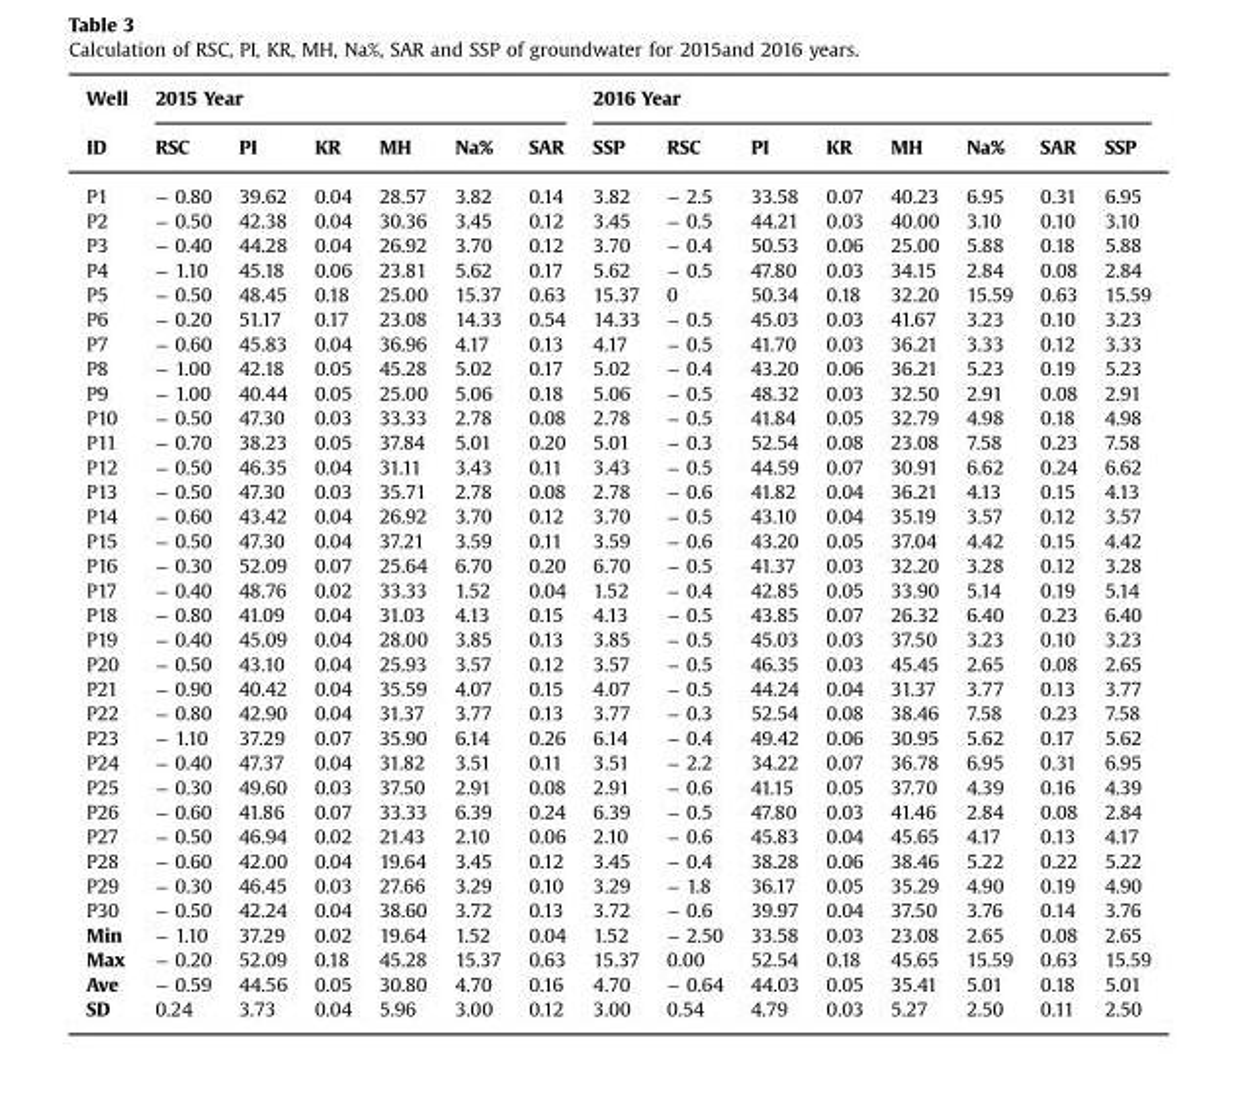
<table><thead><tr><td rowspan="2">Well ID</td><td colspan="6">2015 Year</td><td colspan="8">2016 Year</td></tr><tr><td>RSC</td><td>PI</td><td>KR</td><td>MH</td><td>Na%</td><td>SAR</td><td>SSP</td><td>RSC</td><td>PI</td><td>KR</td><td>MH</td><td>Na%</td><td>SAR</td><td>SSP</td></tr></thead><tbody><tr><td>P1</td><td>− 0.80</td><td>39.62</td><td>0.04</td><td>28.57</td><td>3.82</td><td>0.14</td><td>3.82</td><td>− 2.5</td><td>33.58</td><td>0.07</td><td>40.23</td><td>6.95</td><td>0.31</td><td>6.95</td></tr><tr><td>P2</td><td>− 0.50</td><td>42.38</td><td>0.04</td><td>30.36</td><td>3.45</td><td>0.12</td><td>3.45</td><td>− 0.5</td><td>44.21</td><td>0.03</td><td>40.00</td><td>3.10</td><td>0.10</td><td>3.10</td></tr><tr><td>P3</td><td>− 0.40</td><td>44.28</td><td>0.04</td><td>26.92</td><td>3.70</td><td>0.12</td><td>3.70</td><td>− 0.4</td><td>50.53</td><td>0.06</td><td>25.00</td><td>5.88</td><td>0.18</td><td>5.88</td></tr><tr><td>P4</td><td>− 1.10</td><td>45.18</td><td>0.06</td><td>23.81</td><td>5.62</td><td>0.17</td><td>5.62</td><td>− 0.5</td><td>47.80</td><td>0.03</td><td>34.15</td><td>2.84</td><td>0.08</td><td>2.84</td></tr><tr><td>P5</td><td>− 0.50</td><td>48.45</td><td>0.18</td><td>25.00</td><td>15.37</td><td>0.63</td><td>15.37</td><td>0</td><td>50.34</td><td>0.18</td><td>32.20</td><td>15.59</td><td>0.63</td><td>15.59</td></tr><tr><td>P6</td><td>− 0.20</td><td>51.17</td><td>0.17</td><td>23.08</td><td>14.33</td><td>0.54</td><td>14.33</td><td>− 0.5</td><td>45.03</td><td>0.03</td><td>41.67</td><td>3.23</td><td>0.10</td><td>3.23</td></tr><tr><td>P7</td><td>− 0.60</td><td>45.83</td><td>0.04</td><td>36.96</td><td>4.17</td><td>0.13</td><td>4.17</td><td>− 0.5</td><td>41.70</td><td>0.03</td><td>36.21</td><td>3.33</td><td>0.12</td><td>3.33</td></tr><tr><td>P8</td><td>− 1.00</td><td>42.18</td><td>0.05</td><td>45.28</td><td>5.02</td><td>0.17</td><td>5.02</td><td>− 0.4</td><td>43.20</td><td>0.06</td><td>36.21</td><td>5.23</td><td>0.19</td><td>5.23</td></tr><tr><td>P9</td><td>− 1.00</td><td>40.44</td><td>0.05</td><td>25.00</td><td>5.06</td><td>0.18</td><td>5.06</td><td>− 0.5</td><td>48.32</td><td>0.03</td><td>32.50</td><td>2.91</td><td>0.08</td><td>2.91</td></tr><tr><td>P10</td><td>− 0.50</td><td>47.30</td><td>0.03</td><td>33.33</td><td>2.78</td><td>0.08</td><td>2.78</td><td>− 0.5</td><td>41.84</td><td>0.05</td><td>32.79</td><td>4.98</td><td>0.18</td><td>4.98</td></tr><tr><td>P11</td><td>− 0.70</td><td>38.23</td><td>0.05</td><td>37.84</td><td>5.01</td><td>0.20</td><td>5.01</td><td>− 0.3</td><td>52.54</td><td>0.08</td><td>23.08</td><td>7.58</td><td>0.23</td><td>7.58</td></tr><tr><td>P12</td><td>− 0.50</td><td>46.35</td><td>0.04</td><td>31.11</td><td>3.43</td><td>0.11</td><td>3.43</td><td>− 0.5</td><td>44.59</td><td>0.07</td><td>30.91</td><td>6.62</td><td>0.24</td><td>6.62</td></tr><tr><td>P13</td><td>− 0.50</td><td>47.30</td><td>0.03</td><td>35.71</td><td>2.78</td><td>0.08</td><td>2.78</td><td>− 0.6</td><td>41.82</td><td>0.04</td><td>36.21</td><td>4.13</td><td>0.15</td><td>4.13</td></tr><tr><td>P14</td><td>− 0.60</td><td>43.42</td><td>0.04</td><td>26.92</td><td>3.70</td><td>0.12</td><td>3.70</td><td>− 0.5</td><td>43.10</td><td>0.04</td><td>35.19</td><td>3.57</td><td>0.12</td><td>3.57</td></tr><tr><td>P15</td><td>− 0.50</td><td>47.30</td><td>0.04</td><td>37.21</td><td>3.59</td><td>0.11</td><td>3.59</td><td>− 0.6</td><td>43.20</td><td>0.05</td><td>37.04</td><td>4.42</td><td>0.15</td><td>4.42</td></tr><tr><td>P16</td><td>− 0.30</td><td>52.09</td><td>0.07</td><td>25.64</td><td>6.70</td><td>0.20</td><td>6.70</td><td>− 0.5</td><td>41.37</td><td>0.03</td><td>32.20</td><td>3.28</td><td>0.12</td><td>3.28</td></tr><tr><td>P17</td><td>− 0.40</td><td>48.76</td><td>0.02</td><td>33.33</td><td>1.52</td><td>0.04</td><td>1.52</td><td>− 0.4</td><td>42.85</td><td>0.05</td><td>33.90</td><td>5.14</td><td>0.19</td><td>5.14</td></tr><tr><td>P18</td><td>− 0.80</td><td>41.09</td><td>0.04</td><td>31.03</td><td>4.13</td><td>0.15</td><td>4.13</td><td>− 0.5</td><td>43.85</td><td>0.07</td><td>26.32</td><td>6.40</td><td>0.23</td><td>6.40</td></tr><tr><td>P19</td><td>− 0.40</td><td>45.09</td><td>0.04</td><td>28.00</td><td>3.85</td><td>0.13</td><td>3.85</td><td>− 0.5</td><td>45.03</td><td>0.03</td><td>37.50</td><td>3.23</td><td>0.10</td><td>3.23</td></tr><tr><td>P20</td><td>− 0.50</td><td>43.10</td><td>0.04</td><td>25.93</td><td>3.57</td><td>0.12</td><td>3.57</td><td>− 0.5</td><td>46.35</td><td>0.03</td><td>45.45</td><td>2.65</td><td>0.08</td><td>2.65</td></tr><tr><td>P21</td><td>− 0.90</td><td>40.42</td><td>0.04</td><td>35.59</td><td>4.07</td><td>0.15</td><td>4.07</td><td>− 0.5</td><td>44.24</td><td>0.04</td><td>31.37</td><td>3.77</td><td>0.13</td><td>3.77</td></tr><tr><td>P22</td><td>− 0.80</td><td>42.90</td><td>0.04</td><td>31.37</td><td>3.77</td><td>0.13</td><td>3.77</td><td>− 0.3</td><td>52.54</td><td>0.08</td><td>38.46</td><td>7.58</td><td>0.23</td><td>7.58</td></tr><tr><td>P23</td><td>− 1.10</td><td>37.29</td><td>0.07</td><td>35.90</td><td>6.14</td><td>0.26</td><td>6.14</td><td>− 0.4</td><td>49.42</td><td>0.06</td><td>30.95</td><td>5.62</td><td>0.17</td><td>5.62</td></tr><tr><td>P24</td><td>− 0.40</td><td>47.37</td><td>0.04</td><td>31.82</td><td>3.51</td><td>0.11</td><td>3.51</td><td>− 2.2</td><td>34.22</td><td>0.07</td><td>36.78</td><td>6.95</td><td>0.31</td><td>6.95</td></tr><tr><td>P25</td><td>− 0.30</td><td>49.60</td><td>0.03</td><td>37.50</td><td>2.91</td><td>0.08</td><td>2.91</td><td>− 0.6</td><td>41.15</td><td>0.05</td><td>37.70</td><td>4.39</td><td>0.16</td><td>4.39</td></tr><tr><td>P26</td><td>− 0.60</td><td>41.86</td><td>0.07</td><td>33.33</td><td>6.39</td><td>0.24</td><td>6.39</td><td>− 0.5</td><td>47.80</td><td>0.03</td><td>41.46</td><td>2.84</td><td>0.08</td><td>2.84</td></tr><tr><td>P27</td><td>− 0.50</td><td>46.94</td><td>0.02</td><td>21.43</td><td>2.10</td><td>0.06</td><td>2.10</td><td>− 0.6</td><td>45.83</td><td>0.04</td><td>45.65</td><td>4.17</td><td>0.13</td><td>4.17</td></tr><tr><td>P28</td><td>− 0.60</td><td>42.00</td><td>0.04</td><td>19.64</td><td>3.45</td><td>0.12</td><td>3.45</td><td>− 0.4</td><td>38.28</td><td>0.06</td><td>38.46</td><td>5.22</td><td>0.22</td><td>5.22</td></tr><tr><td>P29</td><td>− 0.30</td><td>46.45</td><td>0.03</td><td>27.66</td><td>3.29</td><td>0.10</td><td>3.29</td><td>− 1.8</td><td>36.17</td><td>0.05</td><td>35.29</td><td>4.90</td><td>0.19</td><td>4.90</td></tr><tr><td>P30</td><td>− 0.50</td><td>42.24</td><td>0.04</td><td>38.60</td><td>3.72</td><td>0.13</td><td>3.72</td><td>− 0.6</td><td>39.97</td><td>0.04</td><td>37.50</td><td>3.76</td><td>0.14</td><td>3.76</td></tr><tr><td>Min</td><td>− 1.10</td><td>37.29</td><td>0.02</td><td>19.64</td><td>1.52</td><td>0.04</td><td>1.52</td><td>− 2.50</td><td>33.58</td><td>0.03</td><td>23.08</td><td>2.65</td><td>0.08</td><td>2.65</td></tr><tr><td>Max</td><td>− 0.20</td><td>52.09</td><td>0.18</td><td>45.28</td><td>15.37</td><td>0.63</td><td>15.37</td><td>0.00</td><td>52.54</td><td>0.18</td><td>45.65</td><td>15.59</td><td>0.63</td><td>15.59</td></tr><tr><td>Ave</td><td>− 0.59</td><td>44.56</td><td>0.05</td><td>30.80</td><td>4.70</td><td>0.16</td><td>4.70</td><td>− 0.64</td><td>44.03</td><td>0.05</td><td>35.41</td><td>5.01</td><td>0.18</td><td>5.01</td></tr><tr><td>SD</td><td>0.24</td><td>3.73</td><td>0.04</td><td>5.96</td><td>3.00</td><td>0.12</td><td>3.00</td><td>0.54</td><td>4.79</td><td>0.03</td><td>5.27</td><td>2.50</td><td>0.11</td><td>2.50</td></tr></tbody></table>